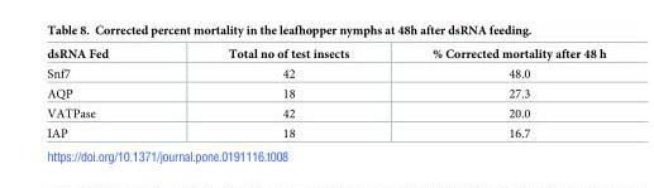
<table><thead><tr><td>dsRNA Fed</td><td>Total no of test insects</td><td>% Corrected mortality after 48 h</td></tr></thead><tbody><tr><td>Snf7</td><td>42</td><td>48.0</td></tr><tr><td>AQP</td><td>18</td><td>27.3</td></tr><tr><td>VATPase</td><td>42</td><td>20.0</td></tr><tr><td>IAP</td><td>18</td><td>16.7</td></tr></tbody></table>